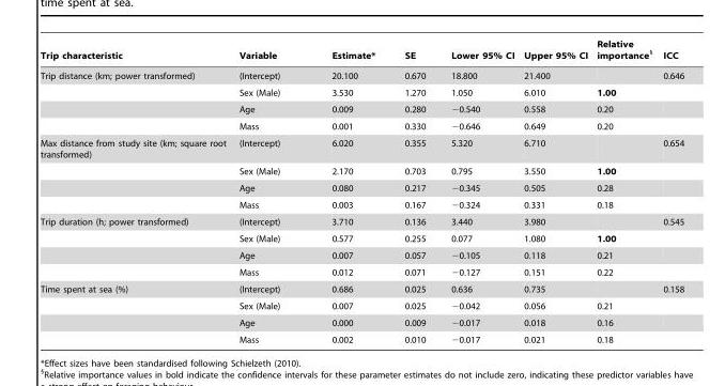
<table><thead><tr><td>Trip characteristic</td><td>Variable</td><td>Estimate*</td><td>SE</td><td>Lower 95% CI</td><td>Upper 95% CI</td><td>Relative importance§</td><td>ICC</td></tr></thead><tbody><tr><td rowspan="4">Trip distance (km; power transformed)</td><td>(Intercept)</td><td>20.100</td><td>0.670</td><td>18.800</td><td>21.400</td><td></td><td>0.646</td></tr><tr><td>Sex (Male)</td><td>3.530</td><td>1.270</td><td>1.050</td><td>6.010</td><td>1.00</td><td></td></tr><tr><td>Age</td><td>0.009</td><td>0.280</td><td>−0.540</td><td>0.558</td><td>0.20</td><td></td></tr><tr><td>Mass</td><td>0.001</td><td>0.330</td><td>−0.646</td><td>0.649</td><td>0.20</td><td></td></tr><tr><td rowspan="4">Max distance from study site (km; square root transformed)</td><td>(Intercept)</td><td>6.020</td><td>0.355</td><td>5.320</td><td>6.710</td><td></td><td>0.654</td></tr><tr><td>Sex (Male)</td><td>2.170</td><td>0.703</td><td>0.795</td><td>3.550</td><td>1.00</td><td></td></tr><tr><td>Age</td><td>0.080</td><td>0.217</td><td>−0.345</td><td>0.505</td><td>0.28</td><td></td></tr><tr><td>Mass</td><td>0.003</td><td>0.167</td><td>−0.324</td><td>0.331</td><td>0.18</td><td></td></tr><tr><td rowspan="4">Trip duration (h; power transformed)</td><td>(Intercept)</td><td>3.710</td><td>0.136</td><td>3.440</td><td>3.980</td><td></td><td>0.545</td></tr><tr><td>Sex (Male)</td><td>0.577</td><td>0.255</td><td>0.077</td><td>1.080</td><td>1.00</td><td></td></tr><tr><td>Age</td><td>0.007</td><td>0.057</td><td>−0.105</td><td>0.118</td><td>0.21</td><td></td></tr><tr><td>Mass</td><td>0.012</td><td>0.071</td><td>−0.127</td><td>0.151</td><td>0.22</td><td></td></tr><tr><td rowspan="4">Time spent at sea (%)</td><td>(Intercept)</td><td>0.686</td><td>0.025</td><td>0.636</td><td>0.735</td><td></td><td>0.158</td></tr><tr><td>Sex (Male)</td><td>0.007</td><td>0.025</td><td>−0.042</td><td>0.056</td><td>0.21</td><td></td></tr><tr><td>Age</td><td>0.000</td><td>0.009</td><td>−0.017</td><td>0.018</td><td>0.16</td><td></td></tr><tr><td>Mass</td><td>0.002</td><td>0.010</td><td>−0.017</td><td>0.021</td><td>0.18</td><td></td></tr></tbody></table>